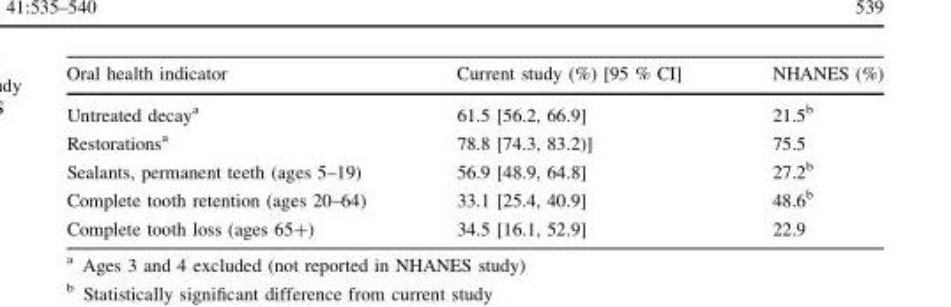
<table><thead><tr><td>Oral health indicator</td><td>Current study (%) [95 % CI]</td><td>NHANES (%)</td></tr></thead><tbody><tr><td>Untreated decay<sup>a</sup></td><td>61.5 [56.2, 66.9]</td><td>21.5<sup>b</sup></td></tr><tr><td>Restorations<sup>a</sup></td><td>78.8 [74.3, 83.2)]</td><td>75.5</td></tr><tr><td>Sealants, permanent teeth (ages 5–19)</td><td>56.9 [48.9, 64.8]</td><td>27.2<sup>b</sup></td></tr><tr><td>Complete tooth retention (ages 20–64)</td><td>33.1 [25.4, 40.9]</td><td>48.6<sup>b</sup></td></tr><tr><td>Complete tooth loss (ages 65+)</td><td>34.5 [16.1, 52.9]</td><td>22.9</td></tr></tbody></table>